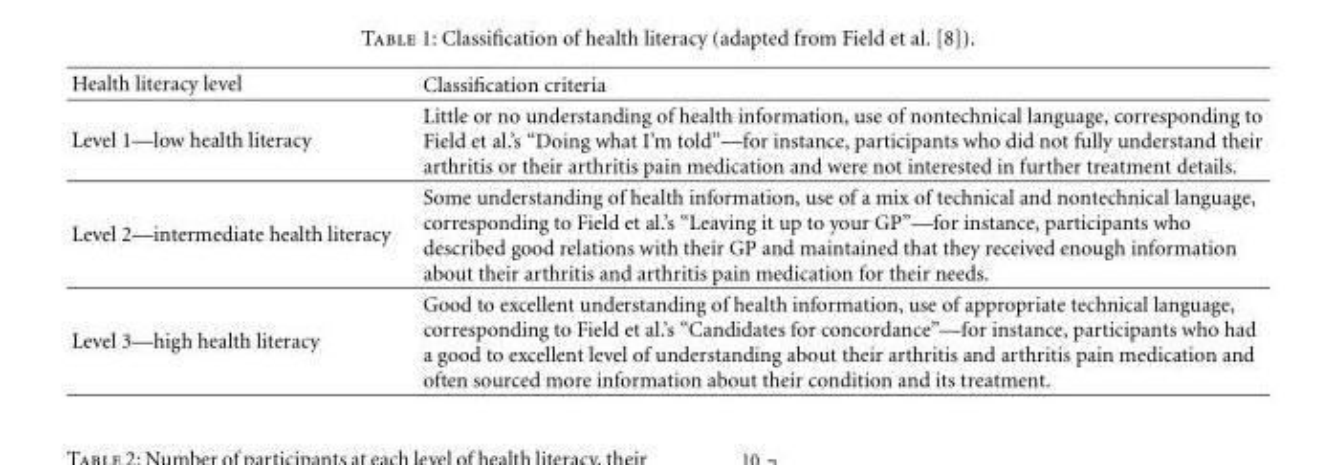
<table><thead><tr><td>Health literacy level</td><td>Classification criteria</td></tr></thead><tbody><tr><td>Level 1—low health literacy</td><td>Little or no understanding of health information, use of nontechnical language, corresponding to Field et al.’s “Doing what I’m told”—for instance, participants who did not fully understand their arthritis or their arthritis pain medication and were not interested in further treatment details.</td></tr><tr><td>Level 2—intermediate health literacy</td><td>Some understanding of health information, use of a mix of technical and nontechnical language, corresponding to Field et al.’s “Leaving it up to your GP”—for instance, participants who described good relations with their GP and maintained that they received enough information about their arthritis and arthritis pain medication for their needs.</td></tr><tr><td>Level 3—high health literacy</td><td>Good to excellent understanding of health information, use of appropriate technical language, corresponding to Field et al.’s “Candidates for concordance”—for instance, participants who had a good to excellent level of understanding about their arthritis and arthritis pain medication and often sourced more information about their condition and its treatment.</td></tr></tbody></table>